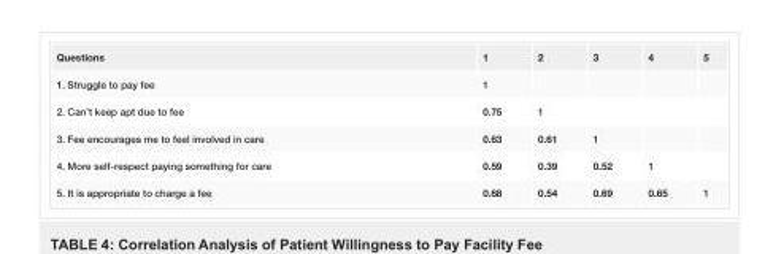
<table><tbody><tr><td>Questions</td><td>1</td><td>2</td><td>3</td><td>4</td><td>5</td></tr><tr><td>1. Struggle to pay fee</td><td>1</td><td></td><td></td><td></td><td></td></tr><tr><td>2. Can’t keep apt due to fee</td><td>0.75</td><td>1</td><td></td><td></td><td></td></tr><tr><td>3. Fee encourages me to feel involved in care</td><td>0.63</td><td>0.61</td><td>1</td><td></td><td></td></tr><tr><td>4. More self-respect paying something for care</td><td>0.59</td><td>0.39</td><td>0.52</td><td>1</td><td></td></tr><tr><td>5. It is appropriate to charge a fee</td><td>0.68</td><td>0.54</td><td>0.69</td><td>0.65</td><td>1</td></tr></tbody></table>